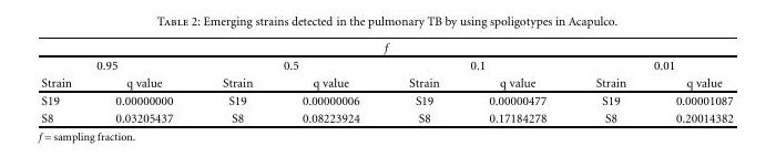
<table><thead><tr><td colspan="8">f</td></tr><tr><td colspan="2">0.95</td><td colspan="2">0.5</td><td colspan="2">0.1</td><td colspan="2">0.01</td></tr><tr><td>Strain</td><td>q value</td><td>Strain</td><td>q value</td><td>Strain</td><td>q value</td><td>Strain</td><td>q value</td></tr></thead><tbody><tr><td>S19</td><td>0.00000000</td><td>S19</td><td>0.00000006</td><td>S19</td><td>0.00000477</td><td>S19</td><td>0.00001087</td></tr><tr><td>S8</td><td>0.03205437</td><td>S8</td><td>0.08223924</td><td>S8</td><td>0.17184278</td><td>S8</td><td>0.20014382</td></tr></tbody></table>